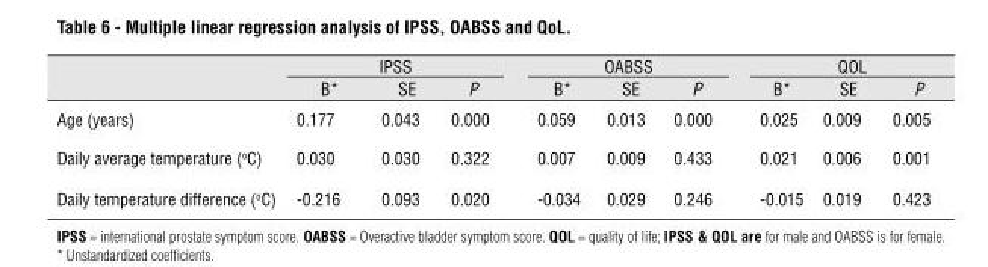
<table><thead><tr><td rowspan="2"></td><td colspan="3">IPSS</td><td colspan="3">OABSS</td><td colspan="3">QOL</td></tr><tr><td>B*</td><td>SE</td><td>P</td><td>B*</td><td>SE</td><td>P</td><td>B*</td><td>SE</td><td>P</td></tr></thead><tbody><tr><td>Age (years)</td><td>0.177</td><td>0.043</td><td>0.000</td><td>0.059</td><td>0.013</td><td>0.000</td><td>0.025</td><td>0.009</td><td>0.005</td></tr><tr><td>Daily average temperature (<sup>o</sup>C)</td><td>0.030</td><td>0.030</td><td>0.322</td><td>0.007</td><td>0.009</td><td>0.433</td><td>0.021</td><td>0.006</td><td>0.001</td></tr><tr><td>Daily temperature difference (<sup>o</sup>C)</td><td>-0.216</td><td>0.093</td><td>0.020</td><td>-0.034</td><td>0.029</td><td>0.246</td><td>-0.015</td><td>0.019</td><td>0.423</td></tr></tbody></table>